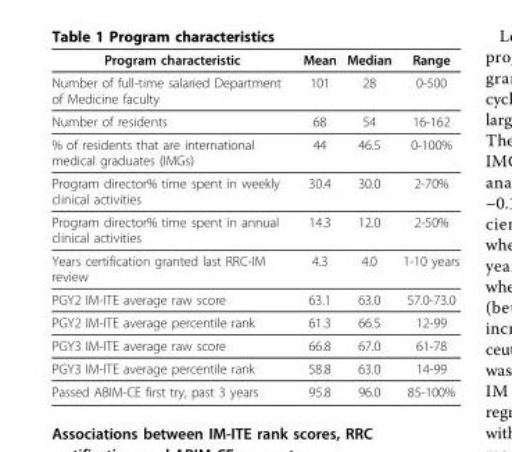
<table><thead><tr><td>Program characteristic</td><td>Mean</td><td>Median</td><td>Range</td></tr></thead><tbody><tr><td>Number of full-time salaried Department of Medicine faculty</td><td>101</td><td>28</td><td>0-500</td></tr><tr><td>Number of residents</td><td>68</td><td>54</td><td>16-162</td></tr><tr><td>% of residents that are international medical graduates (IMGs)</td><td>44</td><td>46.5</td><td>0-100%</td></tr><tr><td>Program director% time spent in weekly clinical activities</td><td>30.4</td><td>30.0</td><td>2-70%</td></tr><tr><td>Program director% time spent in annual clinical activities</td><td>14.3</td><td>12.0</td><td>2-50%</td></tr><tr><td>Years certification granted last RRC-IM review</td><td>4.3</td><td>4.0</td><td>1-10 years</td></tr><tr><td>PGY2 IM-ITE average raw score</td><td>63.1</td><td>63.0</td><td>57.0-73.0</td></tr><tr><td>PGY2 IM-ITE average percentile rank</td><td>61.3</td><td>66.5</td><td>12-99</td></tr><tr><td>PGY3 IM-ITE average raw score</td><td>66.8</td><td>67.0</td><td>61-78</td></tr><tr><td>PGY3 IM-ITE average percentile rank</td><td>58.8</td><td>63.0</td><td>14-99</td></tr><tr><td>Passed ABIM-CE first try, past 3 years</td><td>95.8</td><td>96.0</td><td>85-100%</td></tr></tbody></table>